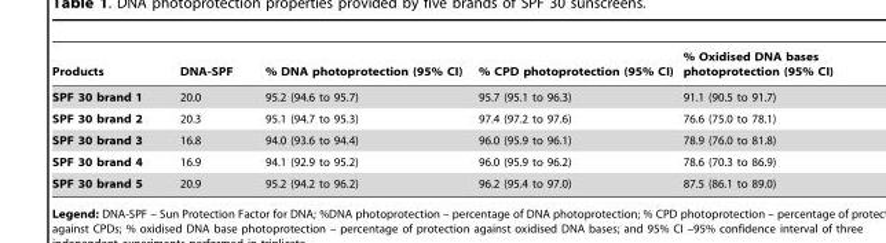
<table><thead><tr><td>Products</td><td>DNA-SPF</td><td>% DNA photoprotection (95% CI)</td><td>% CPD photoprotection (95% CI)</td><td>% Oxidised DNA bases photoprotection (95% CI)</td></tr></thead><tbody><tr><td>SPF 30 brand 1</td><td>20.0</td><td>95.2 (94.6 to 95.7)</td><td>95.7 (95.1 to 96.3)</td><td>91.1 (90.5 to 91.7)</td></tr><tr><td>SPF 30 brand 2</td><td>20.3</td><td>95.1 (94.7 to 95.3)</td><td>97.4 (97.2 to 97.6)</td><td>76.6 (75.0 to 78.1)</td></tr><tr><td>SPF 30 brand 3</td><td>16.8</td><td>94.0 (93.6 to 94.4)</td><td>96.0 (95.9 to 96.1)</td><td>78.9 (76.0 to 81.8)</td></tr><tr><td>SPF 30 brand 4</td><td>16.9</td><td>94.1 (92.9 to 95.2)</td><td>96.0 (95.9 to 96.2)</td><td>78.6 (70.3 to 86.9)</td></tr><tr><td>SPF 30 brand 5</td><td>20.9</td><td>95.2 (94.2 to 96.2)</td><td>96.2 (95.4 to 97.0)</td><td>87.5 (86.1 to 89.0)</td></tr></tbody></table>